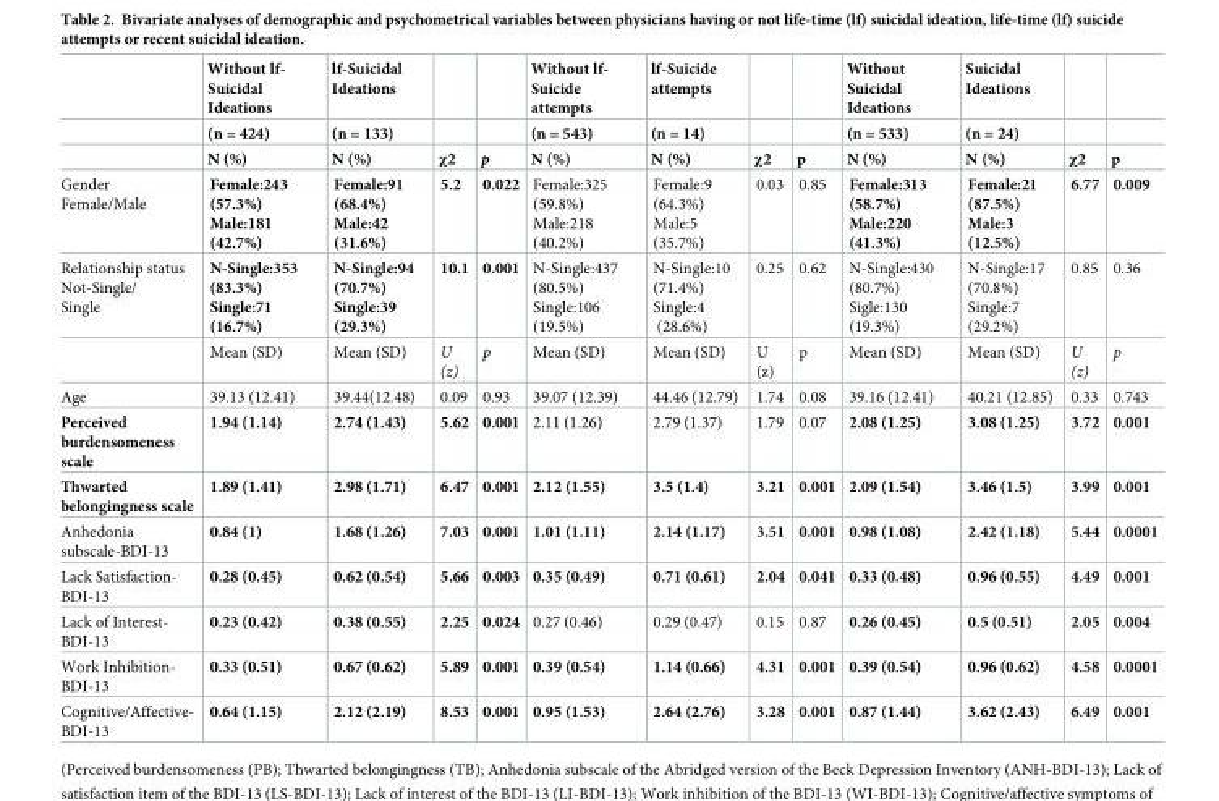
<table><thead><tr><td rowspan="3"></td><td rowspan="3">Without lf- Suicidal Ideations (n = 424) N (%)</td><td rowspan="3">lf-Suicidal Ideations (n = 133) N (%)</td><td rowspan="3">χ2</td><td rowspan="3">p</td><td rowspan="3">Without lf- Suicide attempts (n = 543) N (%)</td><td rowspan="3">lf-Suicide attempts (n = 14) N (%)</td><td rowspan="3">χ2</td><td rowspan="3">p</td><td rowspan="3">Without Suicidal Ideations (n = 533) N (%)</td><td rowspan="3">Suicidal Ideations (n = 24) N (%)</td><td rowspan="3">χ2</td><td rowspan="3">p</td></tr><tr></tr><tr></tr></thead><tbody><tr><td>Gender Female/Male</td><td>Female:243 (57.3%) Male:181 (42.7%)</td><td>Female:91 (68.4%) Male:42 (31.6%)</td><td>5.2</td><td>0.022</td><td>Female:325 (59.8%) Male:218 (40.2%)</td><td>Female:9 (64.3%) Male:5 (35.7%)</td><td>0.03</td><td>0.85</td><td>Female:313 (58.7%) Male:220 (41.3%)</td><td>Female:21 (87.5%) Male:3 (12.5%)</td><td>6.77</td><td>0.009</td></tr><tr><td rowspan="2">Relationship status Not-Single/ Single</td><td>N-Single:353 (83.3%) Single:71 (16.7%)</td><td>N-Single:94 (70.7%) Single:39 (29.3%)</td><td>10.1</td><td>0.001</td><td>N-Single:437 (80.5%) Single:106 (19.5%)</td><td>N-Single:10 (71.4%) Single:4 (28.6%)</td><td>0.25</td><td>0.62</td><td>N-Single:430 (80.7%) Sigle:130 (19.3%)</td><td>N-Single:17 (70.8%) Single:7 (29.2%)</td><td>0.85</td><td>0.36</td></tr><tr><td>Mean (SD)</td><td>Mean (SD)</td><td>U (z)</td><td>p</td><td>Mean (SD)</td><td>Mean (SD)</td><td>U (z)</td><td>p</td><td>Mean (SD)</td><td>Mean (SD)</td><td>U (z)</td><td>p</td></tr><tr><td>Age</td><td>39.13 (12.41)</td><td>39.44(12.48)</td><td>0.09</td><td>0.93</td><td>39.07 (12.39)</td><td>44.46 (12.79)</td><td>1.74</td><td>0.08</td><td>39.16 (12.41)</td><td>40.21 (12.85)</td><td>0.33</td><td>0.743</td></tr><tr><td>Perceived burdensomeness scale</td><td>1.94 (1.14)</td><td>2.74 (1.43)</td><td>5.62</td><td>0.001</td><td>2.11 (1.26)</td><td>2.79 (1.37)</td><td>1.79</td><td>0.07</td><td>2.08 (1.25)</td><td>3.08 (1.25)</td><td>3.72</td><td>0.001</td></tr><tr><td>Thwarted belongingness scale</td><td>1.89 (1.41)</td><td>2.98 (1.71)</td><td>6.47</td><td>0.001</td><td>2.12 (1.55)</td><td>3.5 (1.4)</td><td>3.21</td><td>0.001</td><td>2.09 (1.54)</td><td>3.46 (1.5)</td><td>3.99</td><td>0.001</td></tr><tr><td>Anhedonia subscale-BDI-13</td><td>0.84 (1)</td><td>1.68 (1.26)</td><td>7.03</td><td>0.001</td><td>1.01 (1.11)</td><td>2.14 (1.17)</td><td>3.51</td><td>0.001</td><td>0.98 (1.08)</td><td>2.42 (1.18)</td><td>5.44</td><td>0.0001</td></tr><tr><td>Lack Satisfaction- BDI-13</td><td>0.28 (0.45)</td><td>0.62 (0.54)</td><td>5.66</td><td>0.003</td><td>0.35 (0.49)</td><td>0.71 (0.61)</td><td>2.04</td><td>0.041</td><td>0.33 (0.48)</td><td>0.96 (0.55)</td><td>4.49</td><td>0.001</td></tr><tr><td>Lack of Interest- BDI-13</td><td>0.23 (0.42)</td><td>0.38 (0.55)</td><td>2.25</td><td>0.024</td><td>0.27 (0.46)</td><td>0.29 (0.47)</td><td>0.15</td><td>0.87</td><td>0.26 (0.45)</td><td>0.5 (0.51)</td><td>2.05</td><td>0.004</td></tr><tr><td>Work Inhibition- BDI-13</td><td>0.33 (0.51)</td><td>0.67 (0.62)</td><td>5.89</td><td>0.001</td><td>0.39 (0.54)</td><td>1.14 (0.66)</td><td>4.31</td><td>0.001</td><td>0.39 (0.54)</td><td>0.96 (0.62)</td><td>4.58</td><td>0.0001</td></tr><tr><td>Cognitive/Affective- BDI-13</td><td>0.64 (1.15)</td><td>2.12 (2.19)</td><td>8.53</td><td>0.001</td><td>0.95 (1.53)</td><td>2.64 (2.76)</td><td>3.28</td><td>0.001</td><td>0.87 (1.44)</td><td>3.62 (2.43)</td><td>6.49</td><td>0.001</td></tr></tbody></table>